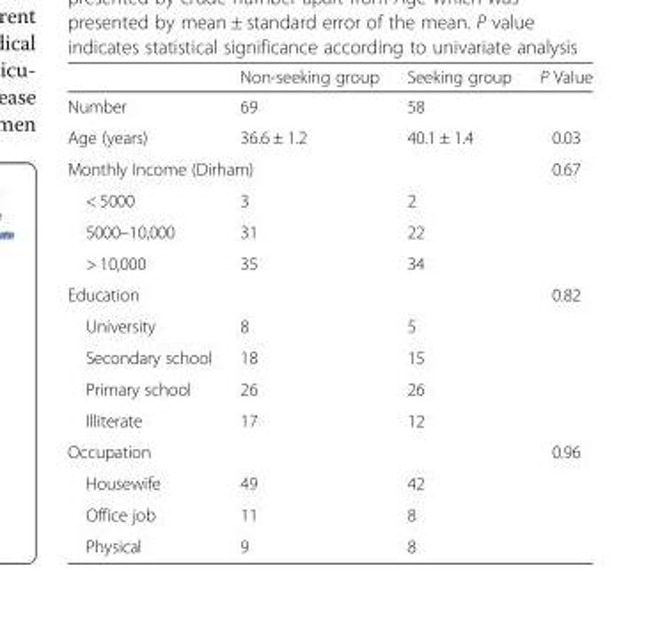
<table><thead><tr><td></td><td>Non-seeking group</td><td>Seeking group</td><td>P Value</td></tr></thead><tbody><tr><td>Number</td><td>69</td><td>58</td><td></td></tr><tr><td>Age (years)</td><td>36.6 ± 1.2</td><td>40.1 ± 1.4</td><td>0.03</td></tr><tr><td colspan="3">Monthly Income (Dirham)</td><td>0.67</td></tr><tr><td>&lt; 5000</td><td>3</td><td>2</td><td></td></tr><tr><td>5000–10,000</td><td>31</td><td>22</td><td></td></tr><tr><td>&gt; 10,000</td><td>35</td><td>34</td><td></td></tr><tr><td colspan="3">Education</td><td>0.82</td></tr><tr><td>University</td><td>8</td><td>5</td><td></td></tr><tr><td>Secondary school</td><td>18</td><td>15</td><td></td></tr><tr><td>Primary school</td><td>26</td><td>26</td><td></td></tr><tr><td>Illiterate</td><td>17</td><td>12</td><td></td></tr><tr><td colspan="3">Occupation</td><td>0.96</td></tr><tr><td>Housewife</td><td>49</td><td>42</td><td></td></tr><tr><td>Office job</td><td>11</td><td>8</td><td></td></tr><tr><td>Physical</td><td>9</td><td>8</td><td></td></tr></tbody></table>